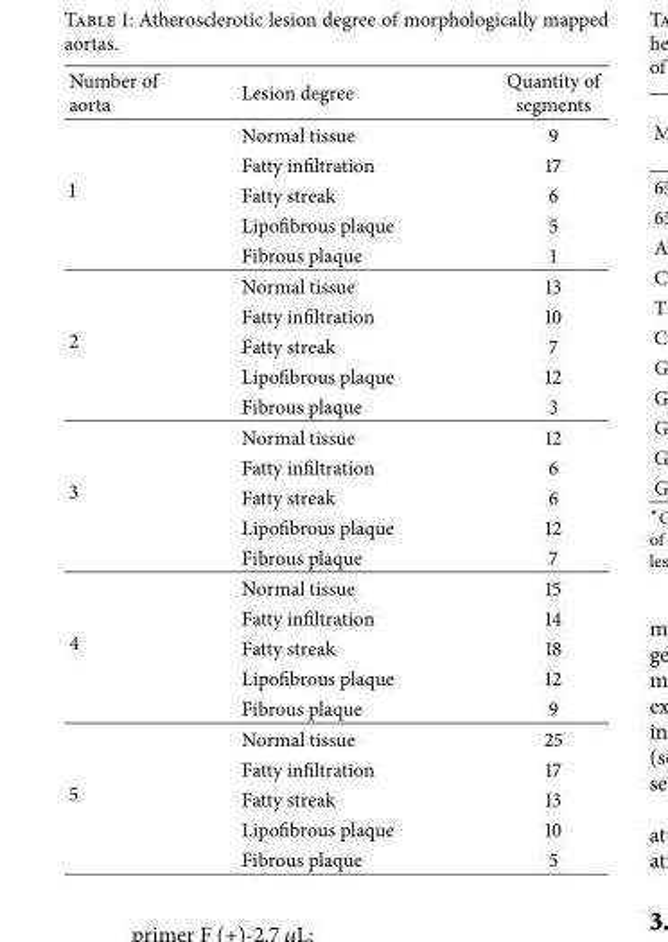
<table><thead><tr><td>Number of aorta</td><td>Lesion degree</td><td>Quantity of segments</td></tr></thead><tbody><tr><td rowspan="5">1</td><td>Normal tissue</td><td>9</td></tr><tr><td>Fatty infiltration</td><td>17</td></tr><tr><td>Fatty streak</td><td>6</td></tr><tr><td>Lipofibrous plaque</td><td>5</td></tr><tr><td>Fibrous plaque</td><td>1</td></tr><tr><td rowspan="5">2</td><td>Normal tissue</td><td>13</td></tr><tr><td>Fatty infiltration</td><td>10</td></tr><tr><td>Fatty streak</td><td>7</td></tr><tr><td>Lipofibrous plaque</td><td>12</td></tr><tr><td>Fibrous plaque</td><td>3</td></tr><tr><td rowspan="5">3</td><td>Normal tissue</td><td>12</td></tr><tr><td>Fatty infiltration</td><td>6</td></tr><tr><td>Fatty streak</td><td>6</td></tr><tr><td>Lipofibrous plaque</td><td>12</td></tr><tr><td>Fibrous plaque</td><td>7</td></tr><tr><td rowspan="5">4</td><td>Normal tissue</td><td>15</td></tr><tr><td>Fatty infiltration</td><td>14</td></tr><tr><td>Fatty streak</td><td>18</td></tr><tr><td>Lipofibrous plaque</td><td>12</td></tr><tr><td>Fibrous plaque</td><td>9</td></tr><tr><td rowspan="5">5</td><td>Normal tissue</td><td>25</td></tr><tr><td>Fatty infiltration</td><td>17</td></tr><tr><td>Fatty streak</td><td>13</td></tr><tr><td>Lipofibrous plaque</td><td>10</td></tr><tr><td>Fibrous plaque</td><td>5</td></tr></tbody></table>